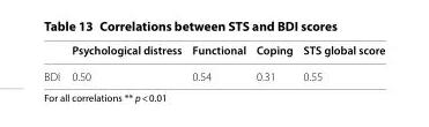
<table><thead><tr><td></td><td>Psychological distress</td><td>Functional</td><td>Coping</td><td>STS global score</td></tr></thead><tbody><tr><td>BDI</td><td>0.50</td><td>0.54</td><td>0.31</td><td>0.55</td></tr></tbody></table>